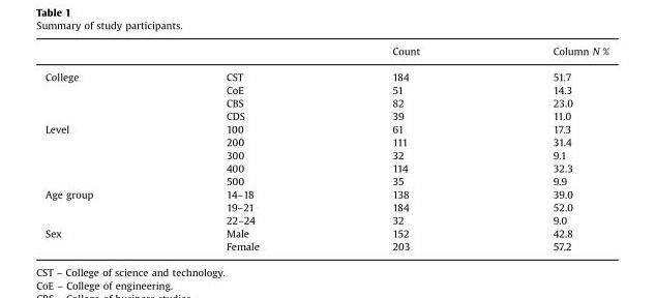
<table><thead><tr><td></td><td></td><td>Count</td><td>Column N %</td></tr></thead><tbody><tr><td rowspan="4">College</td><td>CST</td><td>184</td><td>51.7</td></tr><tr><td>CoE</td><td>51</td><td>14.3</td></tr><tr><td>CBS</td><td>82</td><td>23.0</td></tr><tr><td>CDS</td><td>39</td><td>11.0</td></tr><tr><td rowspan="5">Level</td><td>100</td><td>61</td><td>17.3</td></tr><tr><td>200</td><td>111</td><td>31.4</td></tr><tr><td>300</td><td>32</td><td>9.1</td></tr><tr><td>400</td><td>114</td><td>32.3</td></tr><tr><td>500</td><td>35</td><td>9.9</td></tr><tr><td rowspan="3">Age group</td><td>14–18</td><td>138</td><td>39.0</td></tr><tr><td>19–21</td><td>184</td><td>52.0</td></tr><tr><td>22–24</td><td>32</td><td>9.0</td></tr><tr><td rowspan="2">Sex</td><td>Male</td><td>152</td><td>42.8</td></tr><tr><td>Female</td><td>203</td><td>57.2</td></tr></tbody></table>